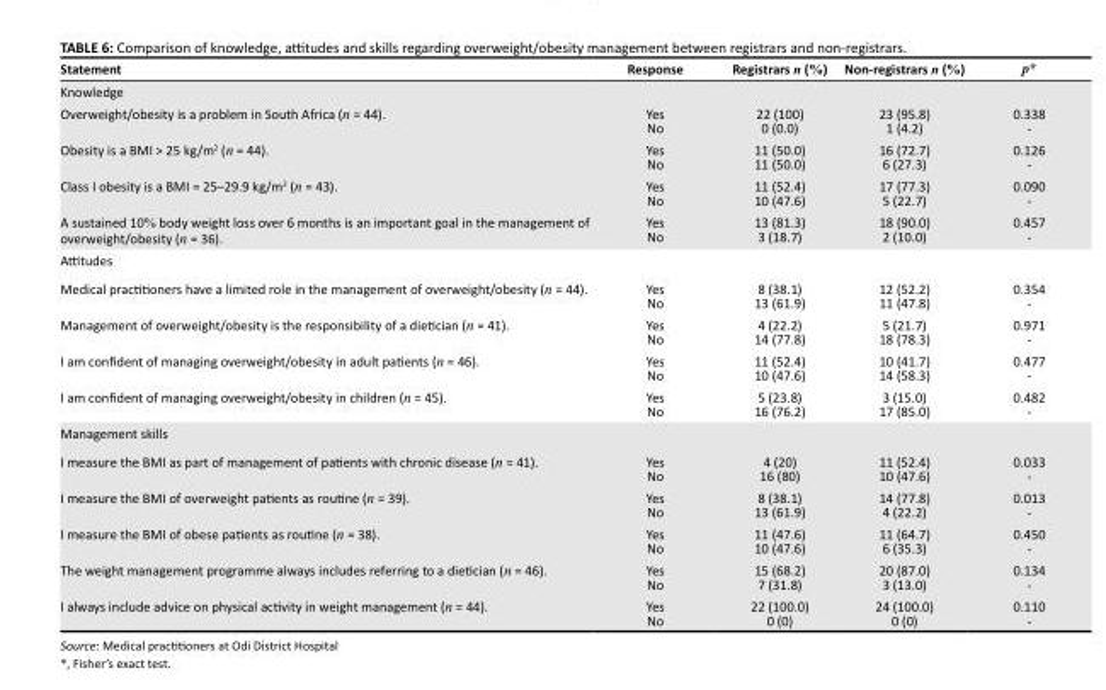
<table><thead><tr><td>Statement</td><td>Response</td><td>Registrars n (%)</td><td>Non-registrars n (%)</td><td>p*</td></tr></thead><tbody><tr><td colspan="5">Knowledge</td></tr><tr><td>Overweight/obesity is a problem in South Africa (n = 44).</td><td>Yes No</td><td>22 (100) 0 (0.0)</td><td>23 (95.8) 1 (4.2)</td><td>0.338 -</td></tr><tr><td>Obesity is a BMI &gt; 25 kg/m<sup>2</sup> (n = 44).</td><td>Yes No</td><td>11 (50.0) 11 (50.0)</td><td>16 (72.7) 6 (27.3)</td><td>0.126 -</td></tr><tr><td>Class I obesity is a BMI = 25–29.9 kg/m<sup>2</sup> (n = 43).</td><td>Yes No</td><td>11 (52.4) 10 (47.6)</td><td>17 (77.3) 5 (22.7)</td><td>0.090 -</td></tr><tr><td>A sustained 10% body weight loss over 6 months is an important goal in the management of overweight/obesity (n = 36).</td><td>Yes No</td><td>13 (81.3) 3 (18.7)</td><td>18 (90.0) 2 (10.0)</td><td>0.457 -</td></tr><tr><td colspan="5">Attitudes</td></tr><tr><td>Medical practitioners have a limited role in the management of overweight/obesity (n = 44).</td><td>Yes No</td><td>8 (38.1) 13 (61.9)</td><td>12 (52.2) 11 (47.8)</td><td>0.354 -</td></tr><tr><td>Management of overweight/obesity is the responsibility of a dietician (n = 41).</td><td>Yes No</td><td>4 (22.2) 14 (77.8)</td><td>5 (21.7) 18 (78.3)</td><td>0.971 -</td></tr><tr><td>I am confident of managing overweight/obesity in adult patients (n = 46).</td><td>Yes No</td><td>11 (52.4) 10 (47.6)</td><td>10 (41.7) 14 (58.3)</td><td>0.477 -</td></tr><tr><td>I am confident of managing overweight/obesity in children (n = 45).</td><td>Yes No</td><td>5 (23.8) 16 (76.2)</td><td>3 (15.0) 17 (85.0)</td><td>0.482 -</td></tr><tr><td colspan="5">Management skills</td></tr><tr><td>I measure the BMI as part of management of patients with chronic disease (n = 41).</td><td>Yes No</td><td>4 (20) 16 (80)</td><td>11 (52.4) 10 (47.6)</td><td>0.033 -</td></tr><tr><td>I measure the BMI of overweight patients as routine (n = 39).</td><td>Yes No</td><td>8 (38.1) 13 (61.9)</td><td>14 (77.8) 4 (22.2)</td><td>0.013 -</td></tr><tr><td>I measure the BMI of obese patients as routine (n = 38).</td><td>Yes No</td><td>11 (47.6) 10 (47.6)</td><td>11 (64.7) 6 (35.3)</td><td>0.450 -</td></tr><tr><td>The weight management programme always includes referring to a dietician (n = 46).</td><td>Yes No</td><td>15 (68.2) 7 (31.8)</td><td>20 (87.0) 3 (13.0)</td><td>0.134 -</td></tr><tr><td>I always include advice on physical activity in weight management (n = 44).</td><td>Yes No</td><td>22 (100.0) 0 (0)</td><td>24 (100.0) 0 (0)</td><td>0.110 -</td></tr></tbody></table>